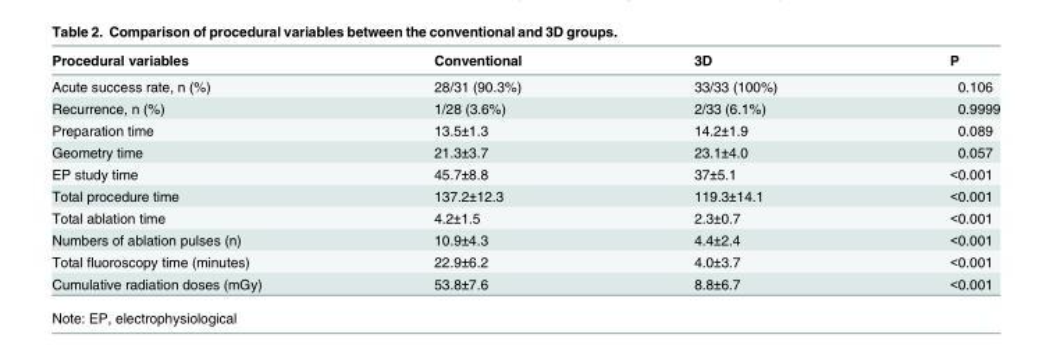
<table><thead><tr><td>Procedural variables</td><td>Conventional</td><td>3D</td><td>P</td></tr></thead><tbody><tr><td>Acute success rate, n (%)</td><td>28/31 (90.3%)</td><td>33/33 (100%)</td><td>0.106</td></tr><tr><td>Recurrence, n (%)</td><td>1/28 (3.6%)</td><td>2/33 (6.1%)</td><td>0.9999</td></tr><tr><td>Preparation time</td><td>13.5±1.3</td><td>14.2±1.9</td><td>0.089</td></tr><tr><td>Geometry time</td><td>21.3±3.7</td><td>23.1±4.0</td><td>0.057</td></tr><tr><td>EP study time</td><td>45.7±8.8</td><td>37±5.1</td><td>&lt;0.001</td></tr><tr><td>Total procedure time</td><td>137.2±12.3</td><td>119.3±14.1</td><td>&lt;0.001</td></tr><tr><td>Total ablation time</td><td>4.2±1.5</td><td>2.3±0.7</td><td>&lt;0.001</td></tr><tr><td>Numbers of ablation pulses (n)</td><td>10.9±4.3</td><td>4.4±2.4</td><td>&lt;0.001</td></tr><tr><td>Total fluoroscopy time (minutes)</td><td>22.9±6.2</td><td>4.0±3.7</td><td>&lt;0.001</td></tr><tr><td>Cumulative radiation doses (mGy)</td><td>53.8±7.6</td><td>8.8±6.7</td><td>&lt;0.001</td></tr></tbody></table>